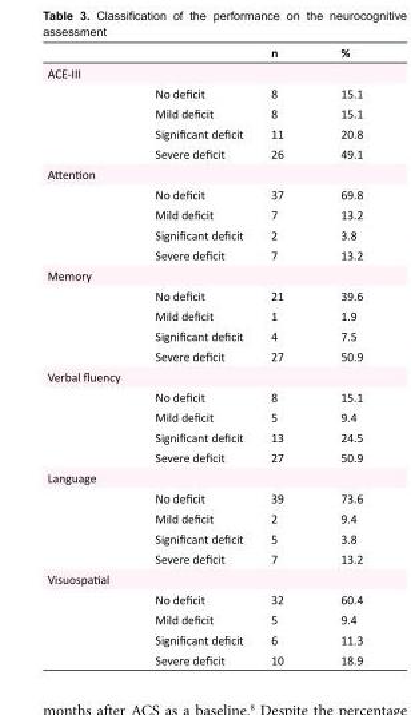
<table><thead><tr><td></td><td></td><td>n</td><td>%</td></tr></thead><tbody><tr><td colspan="4">ACE-III</td></tr><tr><td></td><td>No deficit</td><td>8</td><td>15.1</td></tr><tr><td></td><td>Mild deficit</td><td>8</td><td>15.1</td></tr><tr><td></td><td>Significant deficit</td><td>11</td><td>20.8</td></tr><tr><td></td><td>Severe deficit</td><td>26</td><td>49.1</td></tr><tr><td colspan="4">Attention</td></tr><tr><td></td><td>No deficit</td><td>37</td><td>69.8</td></tr><tr><td></td><td>Mild deficit</td><td>7</td><td>13.2</td></tr><tr><td></td><td>Significant deficit</td><td>2</td><td>3.8</td></tr><tr><td></td><td>Severe deficit</td><td>7</td><td>13.2</td></tr><tr><td colspan="4">Memory</td></tr><tr><td></td><td>No deficit</td><td>21</td><td>39.6</td></tr><tr><td></td><td>Mild deficit</td><td>1</td><td>1.9</td></tr><tr><td></td><td>Significant deficit</td><td>4</td><td>7.5</td></tr><tr><td></td><td>Severe deficit</td><td>27</td><td>50.9</td></tr><tr><td colspan="4">Verbal fluency</td></tr><tr><td></td><td>No deficit</td><td>8</td><td>15.1</td></tr><tr><td></td><td>Mild deficit</td><td>5</td><td>9.4</td></tr><tr><td></td><td>Significant deficit</td><td>13</td><td>24.5</td></tr><tr><td></td><td>Severe deficit</td><td>27</td><td>50.9</td></tr><tr><td colspan="4">Language</td></tr><tr><td></td><td>No deficit</td><td>39</td><td>73.6</td></tr><tr><td></td><td>Mild deficit</td><td>2</td><td>9.4</td></tr><tr><td></td><td>Significant deficit</td><td>5</td><td>3.8</td></tr><tr><td></td><td>Severe deficit</td><td>7</td><td>13.2</td></tr><tr><td colspan="4">Visuospatial</td></tr><tr><td></td><td>No deficit</td><td>32</td><td>60.4</td></tr><tr><td></td><td>Mild deficit</td><td>5</td><td>9.4</td></tr><tr><td></td><td>Significant deficit</td><td>6</td><td>11.3</td></tr><tr><td></td><td>Severe deficit</td><td>10</td><td>18.9</td></tr></tbody></table>